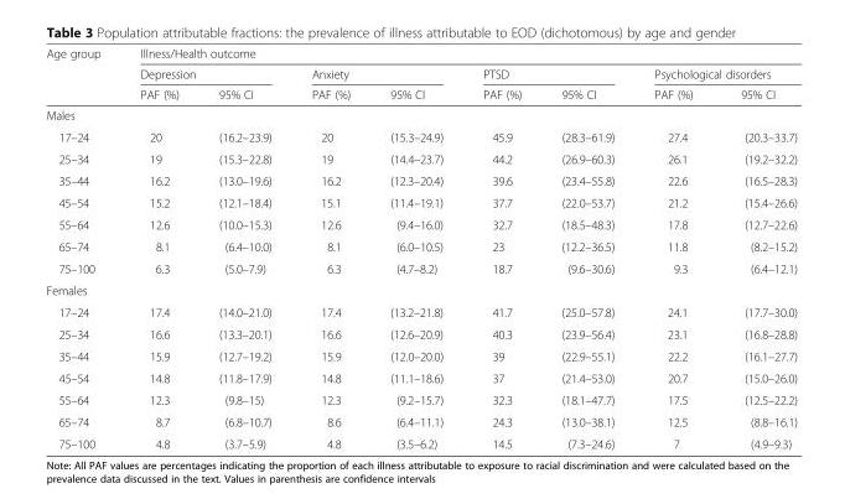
<table><thead><tr><td rowspan="3">Age group</td><td colspan="8">Illness/Health outcome</td></tr><tr><td colspan="2">Depression</td><td colspan="2">Anxiety</td><td colspan="2">PTSD</td><td colspan="2">Psychological disorders</td></tr><tr><td>PAF (%)</td><td>95% CI</td><td>PAF (%)</td><td>95% CI</td><td>PAF (%)</td><td>95% CI</td><td>PAF (%)</td><td>95% CI</td></tr></thead><tbody><tr><td colspan="9">Males</td></tr><tr><td>17–24</td><td>20</td><td>(16.2–23.9)</td><td>20</td><td>(15.3–24.9)</td><td>45.9</td><td>(28.3–61.9)</td><td>27.4</td><td>(20.3–33.7)</td></tr><tr><td>25–34</td><td>19</td><td>(15.3–22.8)</td><td>19</td><td>(14.4–23.7)</td><td>44.2</td><td>(26.9–60.3)</td><td>26.1</td><td>(19.2–32.2)</td></tr><tr><td>35–44</td><td>16.2</td><td>(13.0–19.6)</td><td>16.2</td><td>(12.3–20.4)</td><td>39.6</td><td>(23.4–55.8)</td><td>22.6</td><td>(16.5–28.3)</td></tr><tr><td>45–54</td><td>15.2</td><td>(12.1–18.4)</td><td>15.1</td><td>(11.4–19.1)</td><td>37.7</td><td>(22.0–53.7)</td><td>21.2</td><td>(15.4–26.6)</td></tr><tr><td>55–64</td><td>12.6</td><td>(10.0–15.3)</td><td>12.6</td><td>(9.4–16.0)</td><td>32.7</td><td>(18.5–48.3)</td><td>17.8</td><td>(12.7–22.6)</td></tr><tr><td>65–74</td><td>8.1</td><td>(6.4–10.0)</td><td>8.1</td><td>(6.0–10.5)</td><td>23</td><td>(12.2–36.5)</td><td>11.8</td><td>(8.2–15.2)</td></tr><tr><td>75–100</td><td>6.3</td><td>(5.0–7.9)</td><td>6.3</td><td>(4.7–8.2)</td><td>18.7</td><td>(9.6–30.6)</td><td>9.3</td><td>(6.4–12.1)</td></tr><tr><td colspan="9">Females</td></tr><tr><td>17–24</td><td>17.4</td><td>(14.0–21.0)</td><td>17.4</td><td>(13.2–21.8)</td><td>41.7</td><td>(25.0–57.8)</td><td>24.1</td><td>(17.7–30.0)</td></tr><tr><td>25–34</td><td>16.6</td><td>(13.3–20.1)</td><td>16.6</td><td>(12.6–20.9)</td><td>40.3</td><td>(23.9–56.4)</td><td>23.1</td><td>(16.8–28.8)</td></tr><tr><td>35–44</td><td>15.9</td><td>(12.7–19.2)</td><td>15.9</td><td>(12.0–20.0)</td><td>39</td><td>(22.9–55.1)</td><td>22.2</td><td>(16.1–27.7)</td></tr><tr><td>45–54</td><td>14.8</td><td>(11.8–17.9)</td><td>14.8</td><td>(11.1–18.6)</td><td>37</td><td>(21.4–53.0)</td><td>20.7</td><td>(15.0–26.0)</td></tr><tr><td>55–64</td><td>12.3</td><td>(9.8–15)</td><td>12.3</td><td>(9.2–15.7)</td><td>32.3</td><td>(18.1–47.7)</td><td>17.5</td><td>(12.5–22.2)</td></tr><tr><td>65–74</td><td>8.7</td><td>(6.8–10.7)</td><td>8.6</td><td>(6.4–11.1)</td><td>24.3</td><td>(13.0–38.1)</td><td>12.5</td><td>(8.8–16.1)</td></tr><tr><td>75–100</td><td>4.8</td><td>(3.7–5.9)</td><td>4.8</td><td>(3.5–6.2)</td><td>14.5</td><td>(7.3–24.6)</td><td>7</td><td>(4.9–9.3)</td></tr></tbody></table>